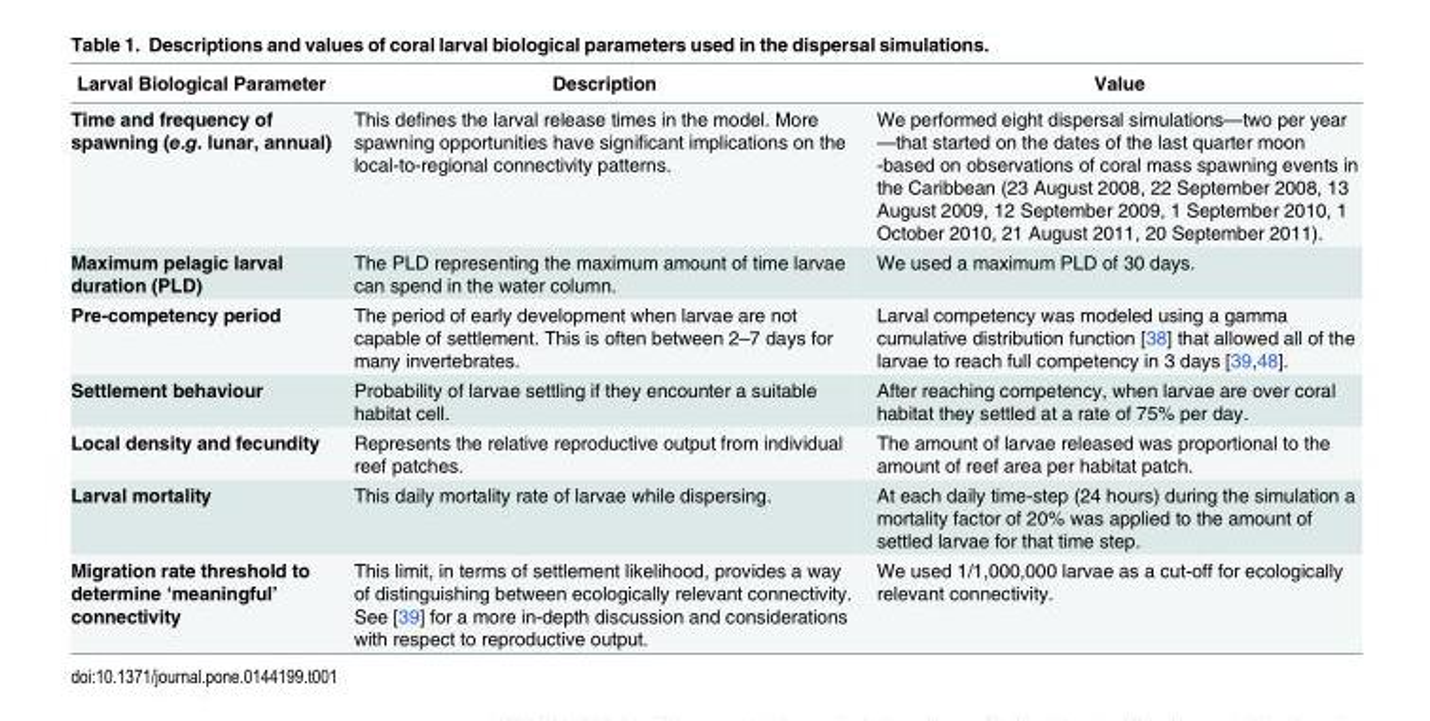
<table><thead><tr><td>Larval Biological Parameter</td><td>Description</td><td>Value</td></tr></thead><tbody><tr><td>Time and frequency of spawning (e.g. lunar, annual)</td><td>This defines the larval release times in the model. More spawning opportunities have significant implications on the local-to-regional connectivity patterns.</td><td>We performed eight dispersal simulations—two per year —that started on the dates of the last quarter moon -based on observations of coral mass spawning events in the Caribbean (23 August 2008, 22 September 2008, 13 August 2009, 12 September 2009, 1 September 2010, 1 October 2010, 21 August 2011, 20 September 2011).</td></tr><tr><td>Maximum pelagic larval duration (PLD)</td><td>The PLD representing the maximum amount of time larvae can spend in the water column.</td><td>We used a maximum PLD of 30 days.</td></tr><tr><td>Pre-competency period</td><td>The period of early development when larvae are not capable of settlement. This is often between 2–7 days for many invertebrates.</td><td>Larval competency was modeled using a gamma cumulative distribution function [38] that allowed all of the larvae to reach full competency in 3 days [39,48].</td></tr><tr><td>Settlement behaviour</td><td>Probability of larvae settling if they encounter a suitable habitat cell.</td><td>After reaching competency, when larvae are over coral habitat they settled at a rate of 75% per day.</td></tr><tr><td>Local density and fecundity</td><td>Represents the relative reproductive output from individual reef patches.</td><td>The amount of larvae released was proportional to the amount of reef area per habitat patch.</td></tr><tr><td>Larval mortality</td><td>This daily mortality rate of larvae while dispersing.</td><td>At each daily time-step (24 hours) during the simulation a mortality factor of 20% was applied to the amount of settled larvae for that time step.</td></tr><tr><td>Migration rate threshold to determine ‘meaningful’ connectivity</td><td>This limit, in terms of settlement likelihood, provides a way of distinguishing between ecologically relevant connectivity. See [39] for a more in-depth discussion and considerations with respect to reproductive output.</td><td>We used 1/1,000,000 larvae as a cut-off for ecologically relevant connectivity.</td></tr></tbody></table>